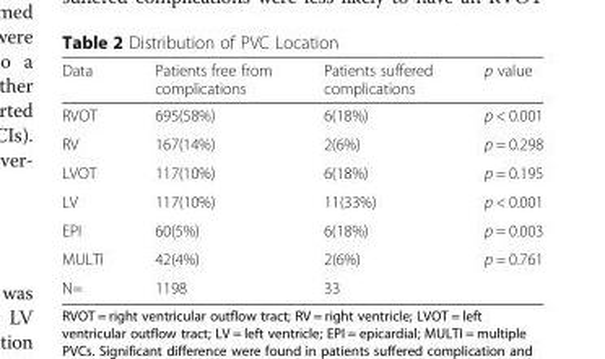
<table><thead><tr><td>Data</td><td>Patients free from complications</td><td>Patients suffered complications</td><td>p value</td></tr></thead><tbody><tr><td>RVOT</td><td>695(58%)</td><td>6(18%)</td><td>p &lt; 0.001</td></tr><tr><td>RV</td><td>167(14%)</td><td>2(6%)</td><td>p = 0.298</td></tr><tr><td>LVOT</td><td>117(10%)</td><td>6(18%)</td><td>p = 0.195</td></tr><tr><td>LV</td><td>117(10%)</td><td>11(33%)</td><td>p &lt; 0.001</td></tr><tr><td>EPI</td><td>60(5%)</td><td>6(18%)</td><td>p = 0.003</td></tr><tr><td>MULTI</td><td>42(4%)</td><td>2(6%)</td><td>p = 0.761</td></tr><tr><td>N=</td><td>1198</td><td>33</td><td></td></tr></tbody></table>